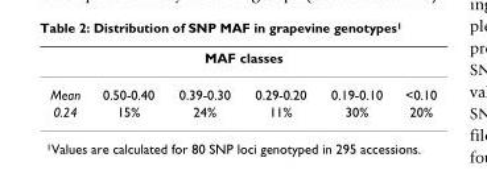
<table><thead><tr><td colspan="6">MAF classes</td></tr><tr><td>Mean</td><td>0.50-0.40</td><td>0.39-0.30</td><td>0.29-0.20</td><td>0.19-0.10</td><td>&lt;0.10</td></tr></thead><tbody><tr><td>0.24</td><td>15%</td><td>24%</td><td>11%</td><td>30%</td><td>20%</td></tr></tbody></table>